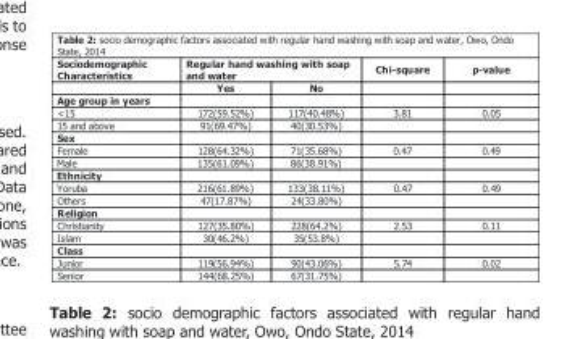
<table><thead><tr><td rowspan="2">Sociodemographic Characteristics</td><td colspan="2">Regular hand washing with soap and water</td><td rowspan="2">Chisquare</td><td rowspan="2">pvalue</td></tr><tr><td>Yes</td><td>No</td></tr></thead><tbody><tr><td colspan="5">Age group in years</td></tr><tr><td>&lt;15</td><td>172(59.52%)</td><td>117(40.48%)</td><td>3.81</td><td>0.05</td></tr><tr><td>15 and above</td><td>91(69.47%)</td><td>40(30.53%)</td><td></td><td></td></tr><tr><td colspan="5">Sex</td></tr><tr><td>Female</td><td>128(64.32%)</td><td>71(35.68%)</td><td>0.47</td><td>0.49</td></tr><tr><td>Male</td><td>135(61.09%)</td><td>86(38.91%)</td><td></td><td></td></tr><tr><td colspan="5">Ethnicity</td></tr><tr><td>Yoruba</td><td>216(61.89%)</td><td>133(38.11%)</td><td>0.47</td><td>0.49</td></tr><tr><td>Others</td><td>47(17.87%)</td><td>24(33.80%)</td><td></td><td></td></tr><tr><td colspan="5">Religion</td></tr><tr><td>Christianity</td><td>127(35.80%)</td><td>228(64.2%)</td><td>2.53</td><td>0.11</td></tr><tr><td>Islam</td><td>30(46.2%)</td><td>35(53.8%)</td><td></td><td></td></tr><tr><td colspan="5">Class</td></tr><tr><td>Junior</td><td>119(56.94%)</td><td>90(43.06%)</td><td>5.74</td><td>0.02</td></tr><tr><td>Senior</td><td>144(68.25%)</td><td>67(31.75%)</td><td></td><td></td></tr></tbody></table>